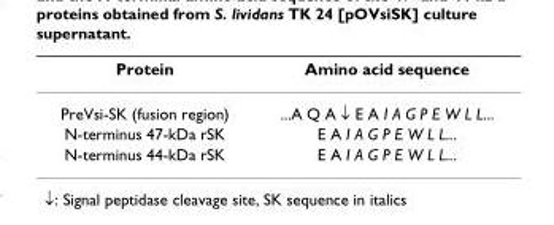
<table><thead><tr><td>Protein</td><td>Amino acid sequence</td></tr></thead><tbody><tr><td>PreVsi-SK (fusion region)</td><td>...A Q A ↓ E A I A G P E W L L...</td></tr><tr><td>N-terminus 47-kDa rSK</td><td>E A I A G P E W L L...</td></tr><tr><td>N-terminus 44-kDa rSK</td><td>E A I A G P E W L L...</td></tr></tbody></table>